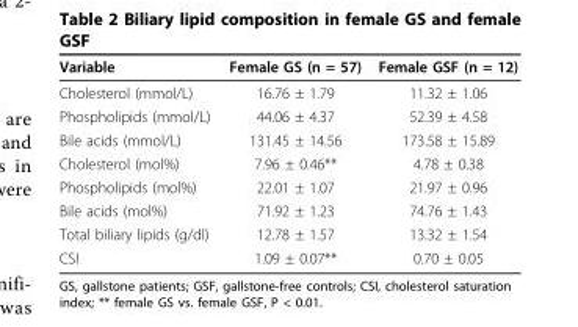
<table><thead><tr><td>Variable</td><td>Female GS (n = 57)</td><td>Female GSF (n = 12)</td></tr></thead><tbody><tr><td>Cholesterol (mmol/L)</td><td>16.76 ± 1.79</td><td>11.32 ± 1.06</td></tr><tr><td>Phospholipids (mmol/L)</td><td>44.06 ± 4.37</td><td>52.39 ± 4.58</td></tr><tr><td>Bile acids (mmol/L)</td><td>131.45 ± 14.56</td><td>173.58 ± 15.89</td></tr><tr><td>Cholesterol (mol%)</td><td>7.96 ± 0.46**</td><td>4.78 ± 0.38</td></tr><tr><td>Phospholipids (mol%)</td><td>22.01 ± 1.07</td><td>21.97 ± 0.96</td></tr><tr><td>Bile acids (mol%)</td><td>71.92 ± 1.23</td><td>74.76 ± 1.43</td></tr><tr><td>Total biliary lipids (g/dl)</td><td>12.78 ± 1.57</td><td>13.32 ± 1.54</td></tr><tr><td>CSI</td><td>1.09 ± 0.07**</td><td>0.70 ± 0.05</td></tr></tbody></table>